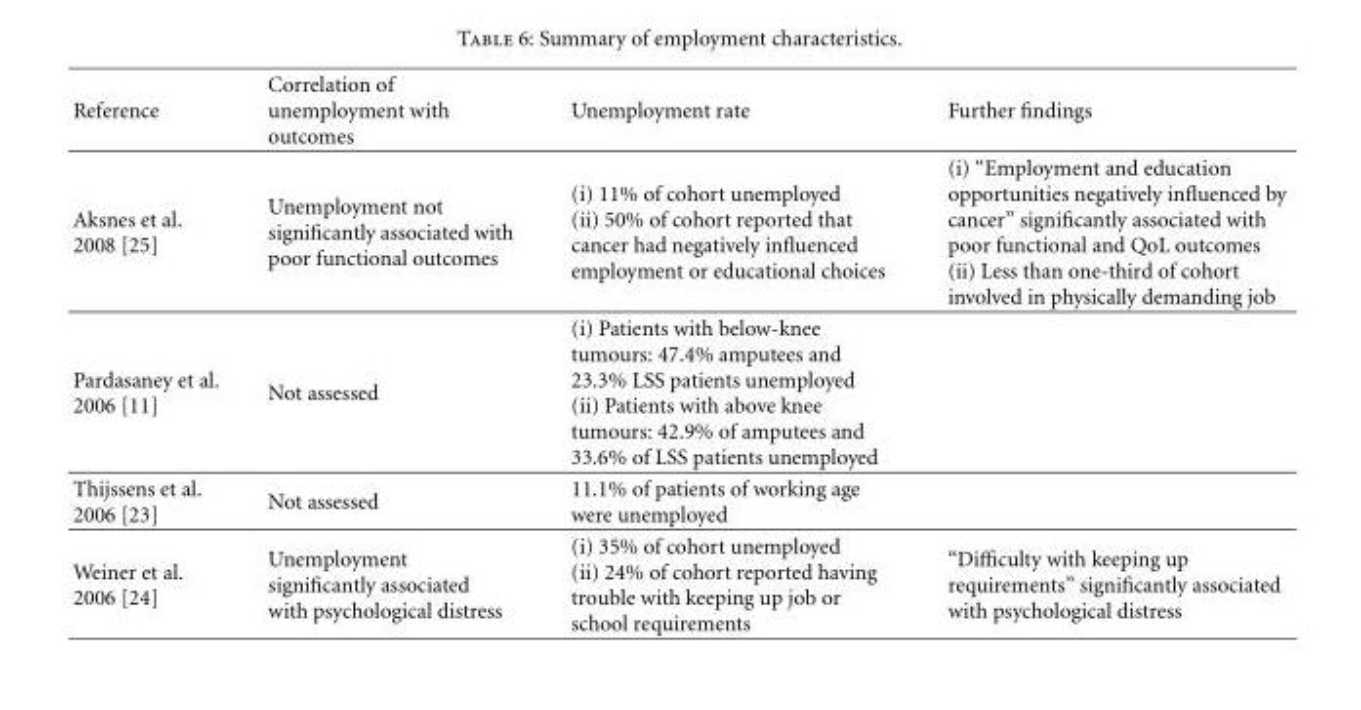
<table><thead><tr><td>Reference</td><td>Correlation of unemployment with outcomes</td><td>Unemployment rate</td><td>Further findings</td></tr></thead><tbody><tr><td>Aksnes et al. 2008 [25]</td><td>Unemployment not significantly associated with poor functional outcomes</td><td>(i) 11% of cohort unemployed (ii) 50% of cohort reported that cancer had negatively influenced employment or educational choices</td><td>(i) “Employment and education opportunities negatively influenced by cancer” significantly associated with poor functional and QoL outcomes (ii) Less than one-third of cohort involved in physically demanding job</td></tr><tr><td>Pardasaney et al. 2006 [11]</td><td>Not assessed</td><td>(i) Patients with below-knee tumours: 47.4% amputees and 23.3% LSS patients unemployed (ii) Patients with above knee tumours: 42.9% of amputees and 33.6% of LSS patients unemployed</td><td></td></tr><tr><td>Thijssens et al. 2006 [23]</td><td>Not assessed</td><td>11.1% of patients of working age were unemployed</td><td></td></tr><tr><td>Weiner et al. 2006 [24]</td><td>Unemployment significantly associated with psychological distress</td><td>(i) 35% of cohort unemployed (ii) 24% of cohort reported having trouble with keeping up job or school requirements</td><td>“Difficulty with keeping up requirements” significantly associated with psychological distress</td></tr></tbody></table>